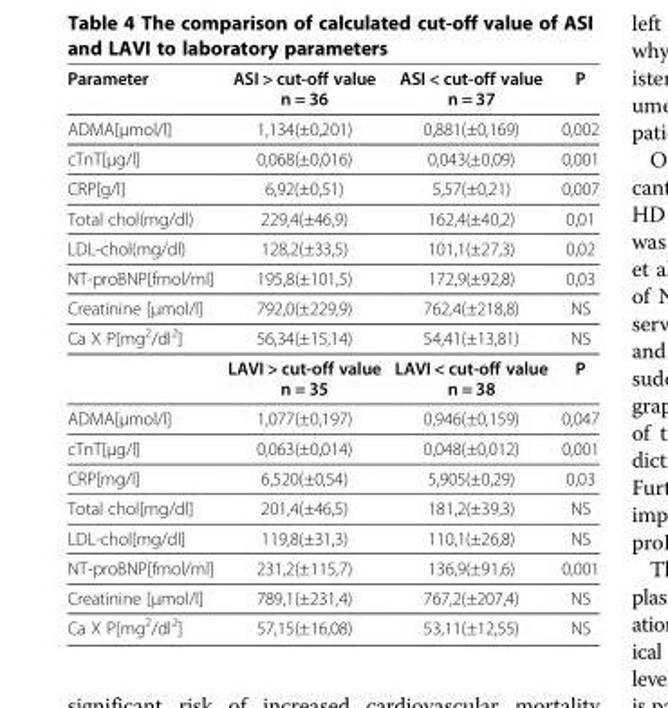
<table><thead><tr><td>Parameter</td><td>ASI &gt; cut-off value n = 36</td><td>ASI &lt; cut-off value n = 37</td><td>P</td></tr></thead><tbody><tr><td>ADMA[μmol/l]</td><td>1,134(±0,201)</td><td>0,881(±0,169)</td><td>0,002</td></tr><tr><td>cTnT[μg/l]</td><td>0,068(±0,016)</td><td>0,043(±0,09)</td><td>0,001</td></tr><tr><td>CRP[g/l]</td><td>6,92(±0,51)</td><td>5,57(±0,21)</td><td>0,007</td></tr><tr><td>Total chol(mg/dl)</td><td>229,4(±46,9)</td><td>162,4(±40,2)</td><td>0,01</td></tr><tr><td>LDL-chol(mg/dl)</td><td>128,2(±33,5)</td><td>101,1(±27,3)</td><td>0,02</td></tr><tr><td>NT-proBNP[fmol/ml]</td><td>195,8(±101,5)</td><td>172,9(±92,8)</td><td>0,03</td></tr><tr><td>Creatinine [μmol/l]</td><td>792,0(±229,9)</td><td>762,4(±218,8)</td><td>NS</td></tr><tr><td rowspan="2">Ca X P[mg<sup>2</sup>/dl<sup>2</sup>]</td><td>56,34(±15,14)</td><td>54,41(±13,81)</td><td>NS</td></tr><tr><td>LAVI &gt; cut-off value n = 35</td><td>LAVI &lt; cut-off value n = 38</td><td>P</td></tr><tr><td>ADMA[μmol/l]</td><td>1,077(±0,197)</td><td>0,946(±0,159)</td><td>0,047</td></tr><tr><td>cTnT[μg/l]</td><td>0,063(±0,014)</td><td>0,048(±0,012)</td><td>0,001</td></tr><tr><td>CRP[mg/l]</td><td>6,520(±0,54)</td><td>5,905(±0,29)</td><td>0,03</td></tr><tr><td>Total chol[mg/dl]</td><td>201,4(±46,5)</td><td>181,2(±39,3)</td><td>NS</td></tr><tr><td>LDL-chol[mg/dl]</td><td>119,8(±31,3)</td><td>110,1(±26,8)</td><td>NS</td></tr><tr><td>NT-proBNP[fmol/ml]</td><td>231,2(±115,7)</td><td>136,9(±91,6)</td><td>0,001</td></tr><tr><td>Creatinine [μmol/l]</td><td>789,1(±231,4)</td><td>767,2(±207,4)</td><td>NS</td></tr><tr><td>Ca X P[mg<sup>2</sup>/dl<sup>2</sup>]</td><td>57,15(±16,08)</td><td>53,11(±12,55)</td><td>NS</td></tr></tbody></table>